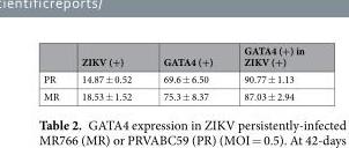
<table><thead><tr><td></td><td>ZIKV (+)</td><td>GATA4 (+)</td><td>GATA4 (+) in ZIKV (+)</td></tr></thead><tbody><tr><td>PR</td><td>14.87 ± 0.52</td><td>69.6 ± 6.50</td><td>90.77 ± 1.13</td></tr><tr><td>MR</td><td>18.53 ± 1.52</td><td>75.3 ± 8.37</td><td>87.03 ± 2.94</td></tr></tbody></table>